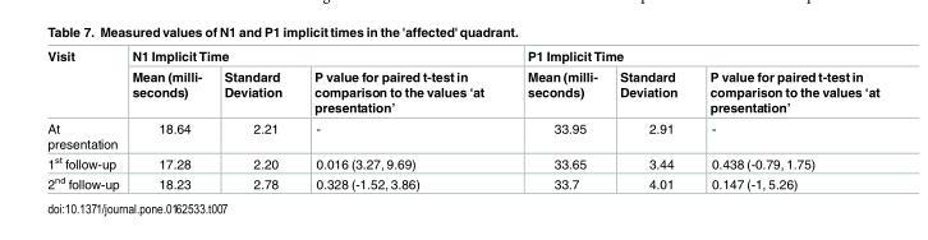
<table><thead><tr><td rowspan="2">Visit</td><td colspan="3">N1 Implicit Time</td><td colspan="3">P1 Implicit Time</td></tr><tr><td>Mean (milli- seconds)</td><td>Standard Deviation</td><td>P value for paired t-test in comparison to the values ‘at presentation’</td><td>Mean (milli- seconds)</td><td>Standard Deviation</td><td>P value for paired t-test in comparison to the values ‘at presentation’</td></tr></thead><tbody><tr><td>At presentation</td><td>18.64</td><td>2.21</td><td>-</td><td>33.95</td><td>2.91</td><td>-</td></tr><tr><td>1<sup>st</sup> follow-up</td><td>17.28</td><td>2.20</td><td>0.016 (3.27, 9.69)</td><td>33.65</td><td>3.44</td><td>0.438 (-0.79, 1.75)</td></tr><tr><td>2<sup>nd</sup> follow-up</td><td>18.23</td><td>2.78</td><td>0.328 (-1.52, 3.86)</td><td>33.7</td><td>4.01</td><td>0.147 (-1, 5.26)</td></tr></tbody></table>